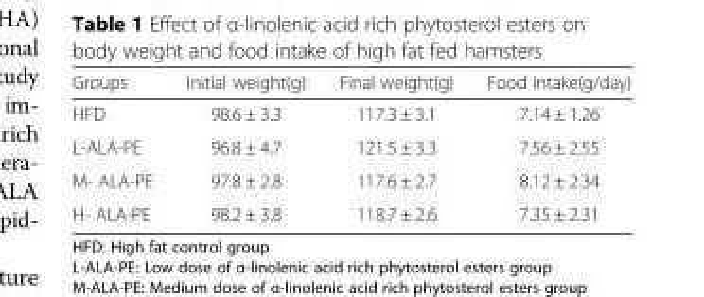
<table><thead><tr><td>Groups</td><td>Initial weight(g)</td><td>Final weight(g)</td><td>Food intake(g/day)</td></tr></thead><tbody><tr><td>HFD</td><td>98.6 ± 3.3</td><td>117.3 ± 3.1</td><td>7.14 ± 1.26</td></tr><tr><td>L-ALA-PE</td><td>96.8 ± 4.7</td><td>121.5 ± 3.3</td><td>7.56 ± 2.55</td></tr><tr><td>M- ALA-PE</td><td>97.8 ± 2.8</td><td>117.6 ± 2.7</td><td>8.12 ± 2.34</td></tr><tr><td>H- ALA-PE</td><td>98.2 ± 3.8</td><td>118.7 ± 2.6</td><td>7.35 ± 2.31</td></tr></tbody></table>